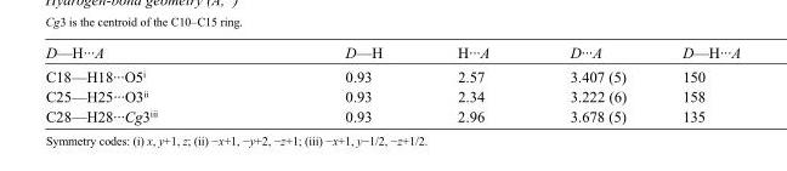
<table><tbody><tr><td>D—H···A</td><td>D—H</td><td>H···A</td><td>D···A</td><td>D—H···A</td></tr><tr><td>C18—H18···O5<sup>i</sup></td><td>0.93</td><td>2.57</td><td>3.407 (5)</td><td>150</td></tr><tr><td>C25—H25···O3<sup>ii</sup></td><td>0.93</td><td>2.34</td><td>3.222 (6)</td><td>158</td></tr><tr><td>C28—H28···Cg3<sup>iii</sup></td><td>0.93</td><td>2.96</td><td>3.678 (5)</td><td>135</td></tr></tbody></table>